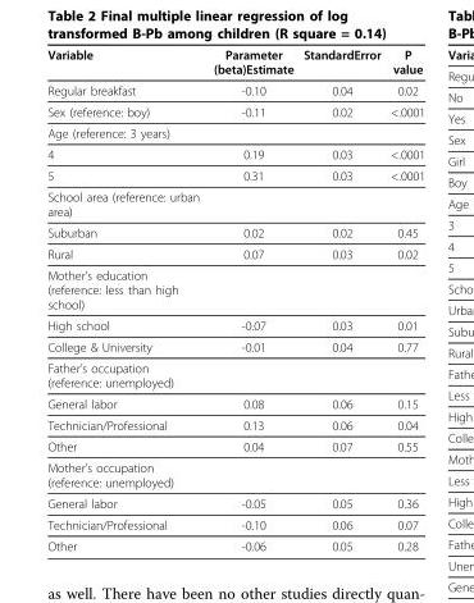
<table><thead><tr><td>Variable</td><td>Parameter (beta)Estimate</td><td>StandardError</td><td>P value</td></tr></thead><tbody><tr><td>Regular breakfast</td><td>-0.10</td><td>0.04</td><td>0.02</td></tr><tr><td>Sex (reference: boy)</td><td>-0.11</td><td>0.02</td><td>&lt;.0001</td></tr><tr><td colspan="4">Age (reference: 3 years)</td></tr><tr><td>4</td><td>0.19</td><td>0.03</td><td>&lt;.0001</td></tr><tr><td>5</td><td>0.31</td><td>0.03</td><td>&lt;.0001</td></tr><tr><td colspan="4">School area (reference: urban area)</td></tr><tr><td>Suburban</td><td>0.02</td><td>0.02</td><td>0.45</td></tr><tr><td>Rural</td><td>0.07</td><td>0.03</td><td>0.02</td></tr><tr><td colspan="4">Mother’s education (reference: less than high school)</td></tr><tr><td>High school</td><td>-0.07</td><td>0.03</td><td>0.01</td></tr><tr><td>College &amp; University</td><td>-0.01</td><td>0.04</td><td>0.77</td></tr><tr><td colspan="4">Father’s occupation (reference: unemployed)</td></tr><tr><td>General labor</td><td>0.08</td><td>0.06</td><td>0.15</td></tr><tr><td>Technician/Professional</td><td>0.13</td><td>0.06</td><td>0.04</td></tr><tr><td>Other</td><td>0.04</td><td>0.07</td><td>0.55</td></tr><tr><td colspan="4">Mother’s occupation (reference: unemployed)</td></tr><tr><td>General labor</td><td>-0.05</td><td>0.05</td><td>0.36</td></tr><tr><td>Technician/Professional</td><td>-0.10</td><td>0.06</td><td>0.07</td></tr><tr><td>Other</td><td>-0.06</td><td>0.05</td><td>0.28</td></tr></tbody></table>